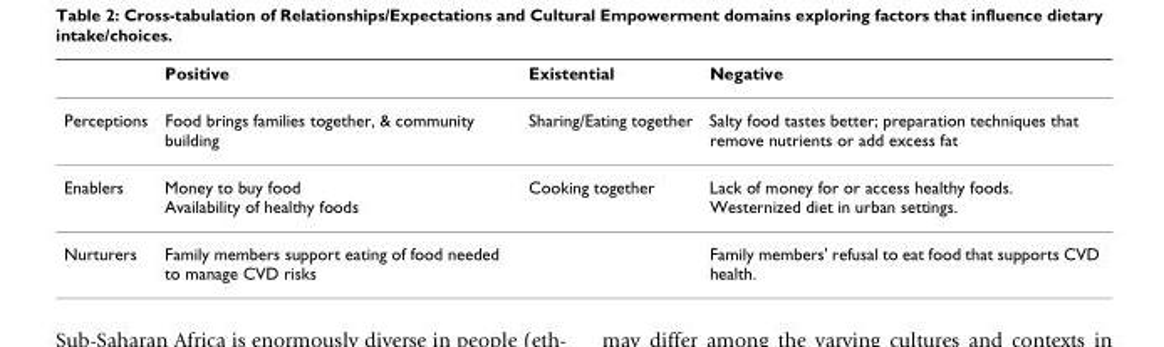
<table><thead><tr><td></td><td>Positive</td><td>Existential</td><td>Negative</td></tr></thead><tbody><tr><td>Perceptions</td><td>Food brings families together, &amp; community building</td><td>Sharing/Eating together</td><td>Salty food tastes better; preparation techniques that remove nutrients or add excess fat</td></tr><tr><td>Enablers</td><td>Money to buy food Availability of healthy foods</td><td>Cooking together</td><td>Lack of money for or access healthy foods. Westernized diet in urban settings.</td></tr><tr><td>Nurturers</td><td>Family members support eating of food needed to manage CVD risks</td><td></td><td>Family members&#x27; refusal to eat food that supports CVD health.</td></tr></tbody></table>